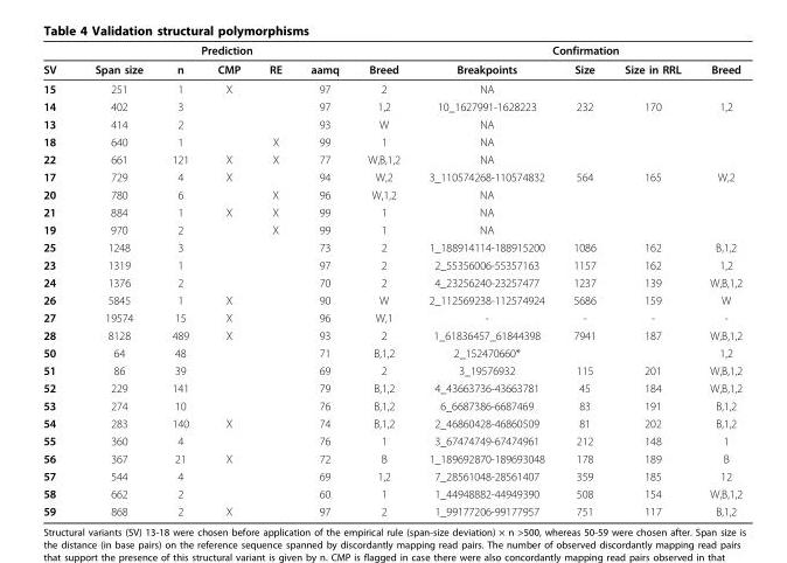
<table><thead><tr><td colspan="7">Prediction</td><td colspan="4">Confirmation</td></tr><tr><td>SV</td><td>Span size</td><td>n</td><td>CMP</td><td>RE</td><td>aamq</td><td>Breed</td><td>Breakpoints</td><td>Size</td><td>Size in RRL</td><td>Breed</td></tr></thead><tbody><tr><td>15</td><td>251</td><td>1</td><td>X</td><td></td><td>97</td><td>2</td><td>NA</td><td></td><td></td><td></td></tr><tr><td>14</td><td>402</td><td>3</td><td></td><td></td><td>97</td><td>1,2</td><td>10_1627991-1628223</td><td>232</td><td>170</td><td>1,2</td></tr><tr><td>13</td><td>414</td><td>2</td><td></td><td></td><td>93</td><td>W</td><td>NA</td><td></td><td></td><td></td></tr><tr><td>18</td><td>640</td><td>1</td><td></td><td>X</td><td>99</td><td>1</td><td>NA</td><td></td><td></td><td></td></tr><tr><td>22</td><td>661</td><td>121</td><td>X</td><td>X</td><td>77</td><td>W,B,1,2</td><td>NA</td><td></td><td></td><td></td></tr><tr><td>17</td><td>729</td><td>4</td><td>X</td><td></td><td>94</td><td>W,2</td><td>3_110574268-110574832</td><td>564</td><td>165</td><td>W,2</td></tr><tr><td>20</td><td>780</td><td>6</td><td></td><td>X</td><td>96</td><td>W,1,2</td><td>NA</td><td></td><td></td><td></td></tr><tr><td>21</td><td>884</td><td>1</td><td>X</td><td>X</td><td>99</td><td>1</td><td>NA</td><td></td><td></td><td></td></tr><tr><td>19</td><td>970</td><td>2</td><td></td><td>X</td><td>99</td><td>1</td><td>NA</td><td></td><td></td><td></td></tr><tr><td>25</td><td>1248</td><td>3</td><td></td><td></td><td>73</td><td>2</td><td>1_188914114-188915200</td><td>1086</td><td>162</td><td>B,1,2</td></tr><tr><td>23</td><td>1319</td><td>1</td><td></td><td></td><td>97</td><td>2</td><td>2_55356006-55357163</td><td>1157</td><td>162</td><td>1,2</td></tr><tr><td>24</td><td>1376</td><td>2</td><td></td><td></td><td>70</td><td>2</td><td>4_23256240-23257477</td><td>1237</td><td>139</td><td>W,B,1,2</td></tr><tr><td>26</td><td>5845</td><td>1</td><td>X</td><td></td><td>90</td><td>W</td><td>2_112569238-112574924</td><td>5686</td><td>159</td><td>W</td></tr><tr><td>27</td><td>19574</td><td>15</td><td>X</td><td></td><td>96</td><td>W,1</td><td>-</td><td>-</td><td>-</td><td>-</td></tr><tr><td>28</td><td>8128</td><td>489</td><td>X</td><td></td><td>93</td><td>2</td><td>1_61836457_61844398</td><td>7941</td><td>187</td><td>W,B,1,2</td></tr><tr><td>50</td><td>64</td><td>48</td><td></td><td></td><td>71</td><td>B,1,2</td><td>2_152470660*</td><td></td><td></td><td>1,2</td></tr><tr><td>51</td><td>86</td><td>39</td><td></td><td></td><td>69</td><td>2</td><td>3_19576932</td><td>115</td><td>201</td><td>W,B,1,2</td></tr><tr><td>52</td><td>229</td><td>141</td><td></td><td></td><td>79</td><td>B,1,2</td><td>4_43663736-43663781</td><td>45</td><td>184</td><td>W,B,1,2</td></tr><tr><td>53</td><td>274</td><td>10</td><td></td><td></td><td>76</td><td>B,1,2</td><td>6_6687386-6687469</td><td>83</td><td>191</td><td>B,1,2</td></tr><tr><td>54</td><td>283</td><td>140</td><td>X</td><td></td><td>74</td><td>B,1,2</td><td>2_46860428-46860509</td><td>81</td><td>202</td><td>B,1,2</td></tr><tr><td>55</td><td>360</td><td>4</td><td></td><td></td><td>76</td><td>1</td><td>3_67474749-67474961</td><td>212</td><td>148</td><td>1</td></tr><tr><td>56</td><td>367</td><td>21</td><td>X</td><td></td><td>72</td><td>B</td><td>1_189692870-189693048</td><td>178</td><td>189</td><td>B</td></tr><tr><td>57</td><td>544</td><td>4</td><td></td><td></td><td>69</td><td>1,2</td><td>7_28561048-28561407</td><td>359</td><td>185</td><td>12</td></tr><tr><td>58</td><td>662</td><td>2</td><td></td><td></td><td>60</td><td>1</td><td>1_44948882-44949390</td><td>508</td><td>154</td><td>W,B,1,2</td></tr><tr><td>59</td><td>868</td><td>2</td><td>X</td><td></td><td>97</td><td>2</td><td>1_99177206-99177957</td><td>751</td><td>117</td><td>B,1,2</td></tr></tbody></table>